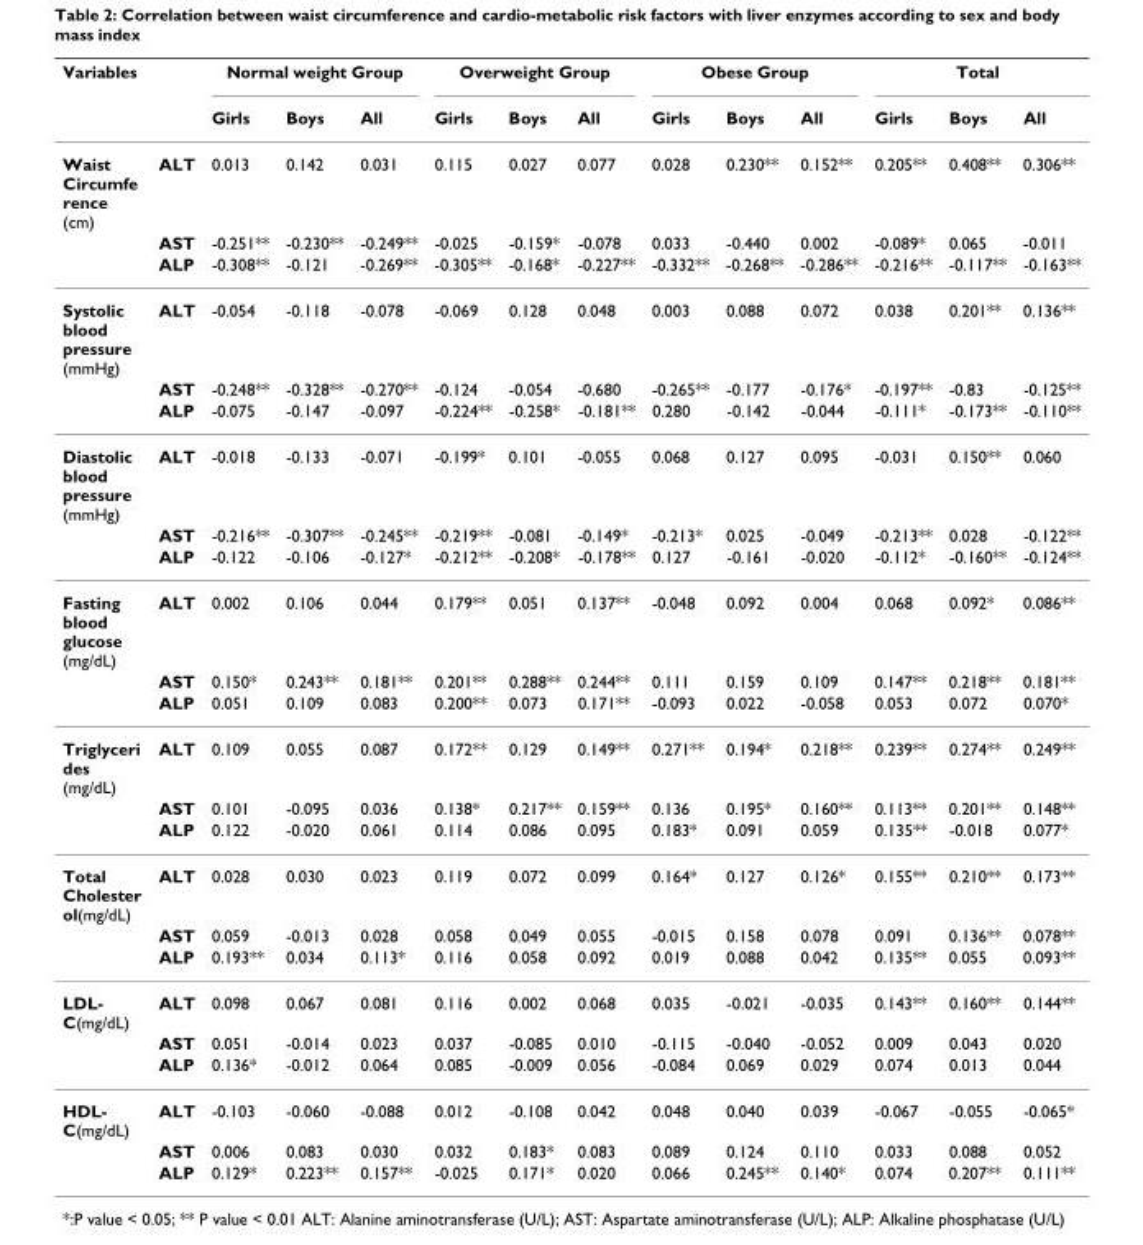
<table><thead><tr><td rowspan="2">Variables</td><td rowspan="2"></td><td colspan="3">Normal weight Group</td><td colspan="3">Overweight Group</td><td colspan="3">Obese Group</td><td colspan="3">Total</td></tr><tr><td>Girls</td><td>Boys</td><td>All</td><td>Girls</td><td>Boys</td><td>All</td><td>Girls</td><td>Boys</td><td>All</td><td>Girls</td><td>Boys</td><td>All</td></tr></thead><tbody><tr><td rowspan="3">Waist Circumfe rence (cm)</td><td>ALT</td><td>0.013</td><td>0.142</td><td>0.031</td><td>0.115</td><td>0.027</td><td>0.077</td><td>0.028</td><td>0.230**</td><td>0.152**</td><td>0.205**</td><td>0.408**</td><td>0.306**</td></tr><tr><td>AST</td><td>-0.251**</td><td>-0.230**</td><td>-0.249**</td><td>-0.025</td><td>-0.159*</td><td>-0.078</td><td>0.033</td><td>-0.440</td><td>0.002</td><td>-0.089*</td><td>0.065</td><td>-0.011</td></tr><tr><td>ALP</td><td>-0.308**</td><td>-0.121</td><td>-0.269**</td><td>-0.305**</td><td>-0.168*</td><td>-0.227**</td><td>-0.332**</td><td>-0.268**</td><td>-0.286**</td><td>-0.216**</td><td>-0.117**</td><td>-0.163**</td></tr><tr><td rowspan="3">Systolic blood pressure (mmHg)</td><td>ALT</td><td>-0.054</td><td>-0.118</td><td>-0.078</td><td>-0.069</td><td>0.128</td><td>0.048</td><td>0.003</td><td>0.088</td><td>0.072</td><td>0.038</td><td>0.201**</td><td>0.136**</td></tr><tr><td>AST</td><td>-0.248**</td><td>-0.328**</td><td>-0.270**</td><td>-0.124</td><td>-0.054</td><td>-0.680</td><td>-0.265**</td><td>-0.177</td><td>-0.176*</td><td>-0.197**</td><td>-0.83</td><td>-0.125**</td></tr><tr><td>ALP</td><td>-0.075</td><td>-0.147</td><td>-0.097</td><td>-0.224**</td><td>-0.258*</td><td>-0.181**</td><td>0.280</td><td>-0.142</td><td>-0.044</td><td>-0.111*</td><td>-0.173**</td><td>-0.110**</td></tr><tr><td rowspan="3">Diastolic blood pressure (mmHg)</td><td>ALT</td><td>-0.018</td><td>-0.133</td><td>-0.071</td><td>-0.199*</td><td>0.101</td><td>-0.055</td><td>0.068</td><td>0.127</td><td>0.095</td><td>-0.031</td><td>0.150**</td><td>0.060</td></tr><tr><td>AST</td><td>-0.216**</td><td>-0.307**</td><td>-0.245**</td><td>-0.219**</td><td>-0.081</td><td>-0.149*</td><td>-0.213*</td><td>0.025</td><td>-0.049</td><td>-0.213**</td><td>0.028</td><td>-0.122**</td></tr><tr><td>ALP</td><td>-0.122</td><td>-0.106</td><td>-0.127*</td><td>-0.212**</td><td>-0.208*</td><td>-0.178**</td><td>0.127</td><td>-0.161</td><td>-0.020</td><td>-0.112*</td><td>-0.160**</td><td>-0.124**</td></tr><tr><td rowspan="3">Fasting blood glucose (mg/dL)</td><td>ALT</td><td>0.002</td><td>0.106</td><td>0.044</td><td>0.179**</td><td>0.051</td><td>0.137**</td><td>-0.048</td><td>0.092</td><td>0.004</td><td>0.068</td><td>0.092*</td><td>0.086**</td></tr><tr><td>AST</td><td>0.150*</td><td>0.243**</td><td>0.181**</td><td>0.201**</td><td>0.288**</td><td>0.244**</td><td>0.111</td><td>0.159</td><td>0.109</td><td>0.147**</td><td>0.218**</td><td>0.181**</td></tr><tr><td>ALP</td><td>0.051</td><td>0.109</td><td>0.083</td><td>0.200**</td><td>0.073</td><td>0.171**</td><td>-0.093</td><td>0.022</td><td>-0.058</td><td>0.053</td><td>0.072</td><td>0.070*</td></tr><tr><td rowspan="3">Triglyceri des (mg/dL)</td><td>ALT</td><td>0.109</td><td>0.055</td><td>0.087</td><td>0.172**</td><td>0.129</td><td>0.149**</td><td>0.271**</td><td>0.194*</td><td>0.218**</td><td>0.239**</td><td>0.274**</td><td>0.249**</td></tr><tr><td>AST</td><td>0.101</td><td>-0.095</td><td>0.036</td><td>0.138*</td><td>0.217**</td><td>0.159**</td><td>0.136</td><td>0.195*</td><td>0.160**</td><td>0.113**</td><td>0.201**</td><td>0.148**</td></tr><tr><td>ALP</td><td>0.122</td><td>-0.020</td><td>0.061</td><td>0.114</td><td>0.086</td><td>0.095</td><td>0.183*</td><td>0.091</td><td>0.059</td><td>0.135**</td><td>-0.018</td><td>0.077*</td></tr><tr><td rowspan="3">Total Cholester ol(mg/dL)</td><td>ALT</td><td>0.028</td><td>0.030</td><td>0.023</td><td>0.119</td><td>0.072</td><td>0.099</td><td>0.164*</td><td>0.127</td><td>0.126*</td><td>0.155**</td><td>0.210**</td><td>0.173**</td></tr><tr><td>AST</td><td>0.059</td><td>-0.013</td><td>0.028</td><td>0.058</td><td>0.049</td><td>0.055</td><td>-0.015</td><td>0.158</td><td>0.078</td><td>0.091</td><td>0.136**</td><td>0.078**</td></tr><tr><td>ALP</td><td>0.193**</td><td>0.034</td><td>0.113*</td><td>0.116</td><td>0.058</td><td>0.092</td><td>0.019</td><td>0.088</td><td>0.042</td><td>0.135**</td><td>0.055</td><td>0.093**</td></tr><tr><td rowspan="3">LDL- C(mg/dL)</td><td>ALT</td><td>0.098</td><td>0.067</td><td>0.081</td><td>0.116</td><td>0.002</td><td>0.068</td><td>0.035</td><td>-0.021</td><td>-0.035</td><td>0.143**</td><td>0.160**</td><td>0.144**</td></tr><tr><td>AST</td><td>0.051</td><td>-0.014</td><td>0.023</td><td>0.037</td><td>-0.085</td><td>0.010</td><td>-0.115</td><td>-0.040</td><td>-0.052</td><td>0.009</td><td>0.043</td><td>0.020</td></tr><tr><td>ALP</td><td>0.136*</td><td>-0.012</td><td>0.064</td><td>0.085</td><td>-0.009</td><td>0.056</td><td>-0.084</td><td>0.069</td><td>0.029</td><td>0.074</td><td>0.013</td><td>0.044</td></tr><tr><td rowspan="3">HDL- C(mg/dL)</td><td>ALT</td><td>-0.103</td><td>-0.060</td><td>-0.088</td><td>0.012</td><td>-0.108</td><td>0.042</td><td>0.048</td><td>0.040</td><td>0.039</td><td>-0.067</td><td>-0.055</td><td>-0.065*</td></tr><tr><td>AST</td><td>0.006</td><td>0.083</td><td>0.030</td><td>0.032</td><td>0.183*</td><td>0.083</td><td>0.089</td><td>0.124</td><td>0.110</td><td>0.033</td><td>0.088</td><td>0.052</td></tr><tr><td>ALP</td><td>0.129*</td><td>0.223**</td><td>0.157**</td><td>-0.025</td><td>0.171*</td><td>0.020</td><td>0.066</td><td>0.245**</td><td>0.140*</td><td>0.074</td><td>0.207**</td><td>0.111**</td></tr></tbody></table>